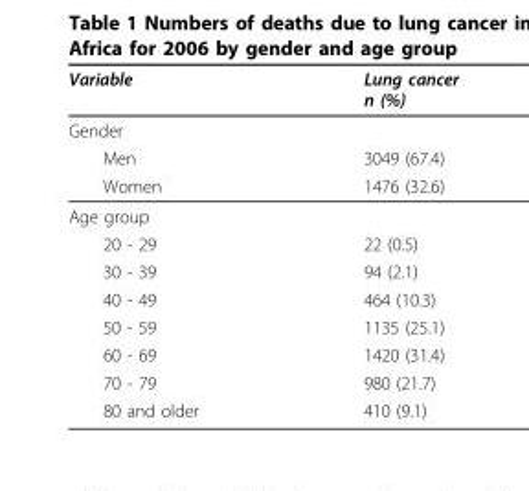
<table><thead><tr><td>Variable</td><td>Lung cancer n (%)</td></tr></thead><tbody><tr><td colspan="2">Gender</td></tr><tr><td>Men</td><td>3049 (67.4)</td></tr><tr><td>Women</td><td>1476 (32.6)</td></tr><tr><td colspan="2">Age group</td></tr><tr><td>20 - 29</td><td>22 (0.5)</td></tr><tr><td>30 - 39</td><td>94 (2.1)</td></tr><tr><td>40 - 49</td><td>464 (10.3)</td></tr><tr><td>50 - 59</td><td>1135 (25.1)</td></tr><tr><td>60 - 69</td><td>1420 (31.4)</td></tr><tr><td>70 - 79</td><td>980 (21.7)</td></tr><tr><td>80 and older</td><td>410 (9.1)</td></tr></tbody></table>